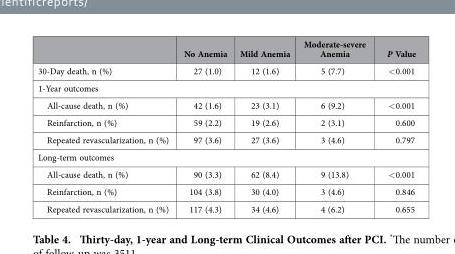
<table><thead><tr><td></td><td>No Anemia</td><td>Mild Anemia</td><td>Moderate-severe Anemia</td><td>P Value</td></tr></thead><tbody><tr><td>30-Day death, n (%)</td><td>27 (1.0)</td><td>12 (1.6)</td><td>5 (7.7)</td><td>&lt; 0.001</td></tr><tr><td colspan="5">1-Year outcomes</td></tr><tr><td>All-cause death, n (%)</td><td>42 (1.6)</td><td>23 (3.1)</td><td>6 (9.2)</td><td>&lt; 0.001</td></tr><tr><td>Reinfarction, n (%)</td><td>59 (2.2)</td><td>19 (2.6)</td><td>2 (3.1)</td><td>0.600</td></tr><tr><td>Repeated revascularization, n (%)</td><td>97 (3.6)</td><td>27 (3.6)</td><td>3 (4.6)</td><td>0.797</td></tr><tr><td colspan="5">Long-term outcomes</td></tr><tr><td>All-cause death, n (%)</td><td>90 (3.3)</td><td>62 (8.4)</td><td>9 (13.8)</td><td>&lt; 0.001</td></tr><tr><td>Reinfarction, n (%)</td><td>104 (3.8)</td><td>30 (4.0)</td><td>3 (4.6)</td><td>0.846</td></tr><tr><td>Repeated revascularization, n (%)</td><td>117 (4.3)</td><td>34 (4.6)</td><td>4 (6.2)</td><td>0.655</td></tr></tbody></table>